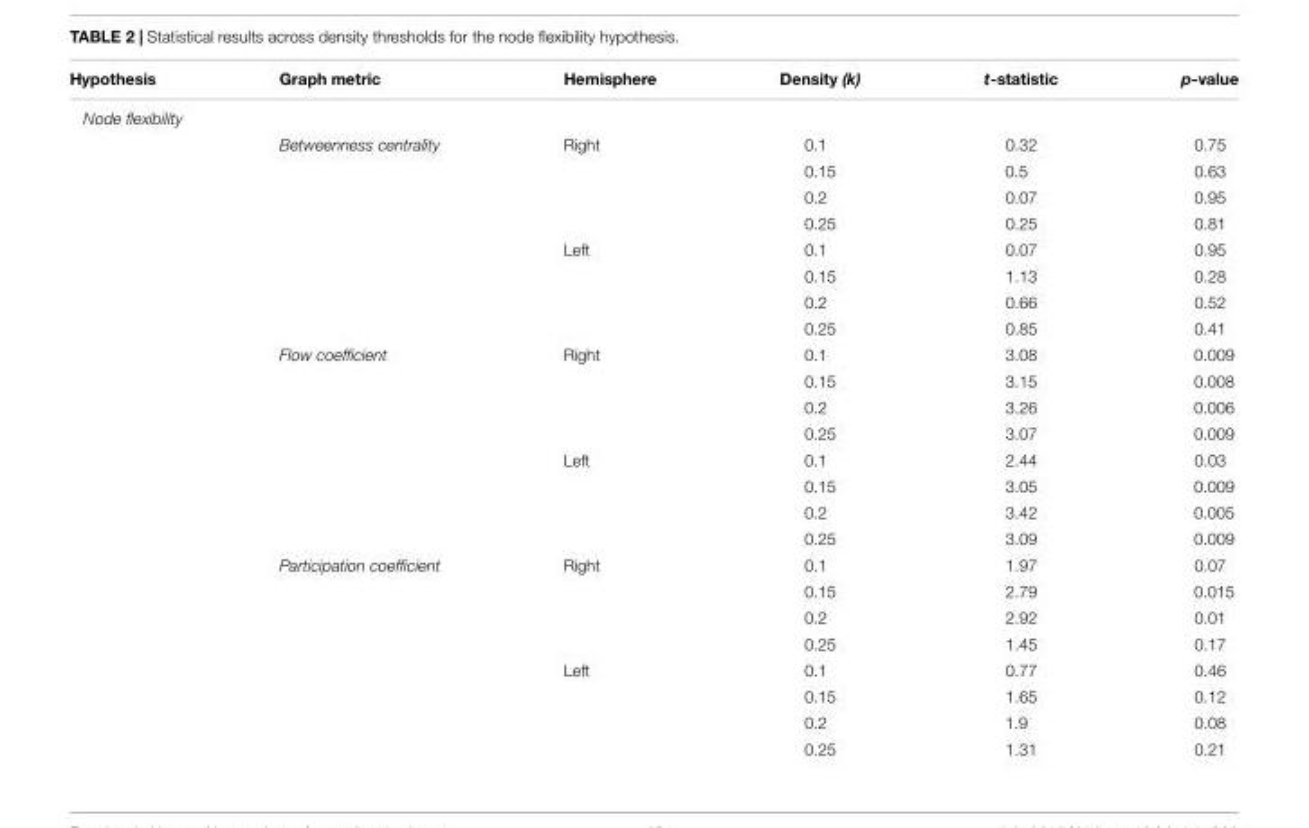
<table><thead><tr><td>Hypothesis</td><td>Graph metric</td><td>Hemisphere</td><td>Density (k)</td><td>t-statistic</td><td>p-value</td></tr></thead><tbody><tr><td colspan="6">Node flexibility</td></tr><tr><td></td><td>Betweenness centrality</td><td>Right</td><td>0.1</td><td>0.32</td><td>0.75</td></tr><tr><td></td><td></td><td></td><td>0.15</td><td>0.5</td><td>0.63</td></tr><tr><td></td><td></td><td></td><td>0.2</td><td>0.07</td><td>0.95</td></tr><tr><td></td><td></td><td></td><td>0.25</td><td>0.25</td><td>0.81</td></tr><tr><td></td><td></td><td>Left</td><td>0.1</td><td>0.07</td><td>0.95</td></tr><tr><td></td><td></td><td></td><td>0.15</td><td>1.13</td><td>0.28</td></tr><tr><td></td><td></td><td></td><td>0.2</td><td>0.66</td><td>0.52</td></tr><tr><td></td><td></td><td></td><td>0.25</td><td>0.85</td><td>0.41</td></tr><tr><td></td><td>Flow coefficient</td><td>Right</td><td>0.1</td><td>3.08</td><td>0.009</td></tr><tr><td></td><td></td><td></td><td>0.15</td><td>3.15</td><td>0.008</td></tr><tr><td></td><td></td><td></td><td>0.2</td><td>3.26</td><td>0.006</td></tr><tr><td></td><td></td><td></td><td>0.25</td><td>3.07</td><td>0.009</td></tr><tr><td></td><td></td><td>Left</td><td>0.1</td><td>2.44</td><td>0.03</td></tr><tr><td></td><td></td><td></td><td>0.15</td><td>3.05</td><td>0.009</td></tr><tr><td></td><td></td><td></td><td>0.2</td><td>3.42</td><td>0.005</td></tr><tr><td></td><td></td><td></td><td>0.25</td><td>3.09</td><td>0.009</td></tr><tr><td></td><td>Participation coefficient</td><td>Right</td><td>0.1</td><td>1.97</td><td>0.07</td></tr><tr><td></td><td></td><td></td><td>0.15</td><td>2.79</td><td>0.015</td></tr><tr><td></td><td></td><td></td><td>0.2</td><td>2.92</td><td>0.01</td></tr><tr><td></td><td></td><td></td><td>0.25</td><td>1.45</td><td>0.17</td></tr><tr><td></td><td></td><td>Left</td><td>0.1</td><td>0.77</td><td>0.46</td></tr><tr><td></td><td></td><td></td><td>0.15</td><td>1.65</td><td>0.12</td></tr><tr><td></td><td></td><td></td><td>0.2</td><td>1.9</td><td>0.08</td></tr><tr><td></td><td></td><td></td><td>0.25</td><td>1.31</td><td>0.21</td></tr></tbody></table>